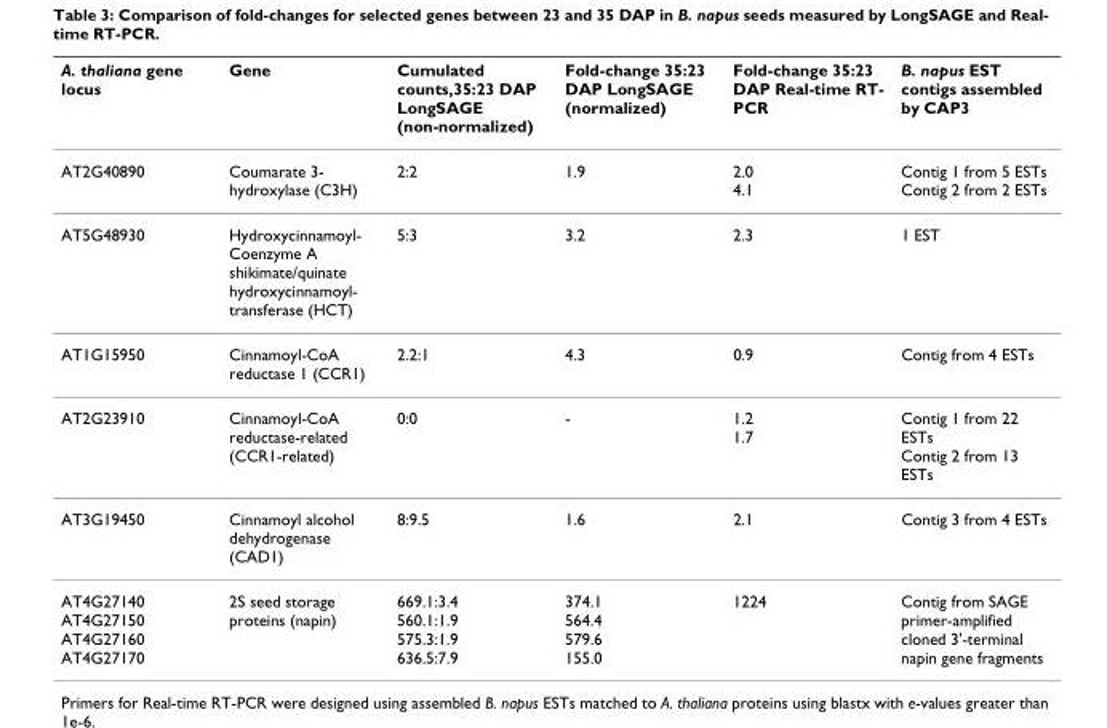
<table><thead><tr><td>A. thaliana gene locus</td><td>Gene</td><td>Cumulated counts,35:23 DAP LongSAGE (non-normalized)</td><td>Fold-change 35:23 DAP LongSAGE (normalized)</td><td>Fold-change 35:23 DAP Real-time RT- PCR</td><td>B. napus EST contigs assembled by CAP3</td></tr></thead><tbody><tr><td>AT2G40890</td><td>Coumarate 3- hydroxylase (C3H)</td><td>2:2</td><td>1.9</td><td>2.0 4.1</td><td>Contig 1 from 5 ESTs Contig 2 from 2 ESTs</td></tr><tr><td>AT5G48930</td><td>Hydroxycinnamoyl- Coenzyme A shikimate/quinate hydroxycinnamoyl- transferase (HCT)</td><td>5:3</td><td>3.2</td><td>2.3</td><td>1 EST</td></tr><tr><td>AT1G15950</td><td>Cinnamoyl-CoA reductase 1 (CCR1)</td><td>2.2:1</td><td>4.3</td><td>0.9</td><td>Contig from 4 ESTs</td></tr><tr><td>AT2G23910</td><td>Cinnamoyl-CoA reductase-related (CCR1-related)</td><td>0:0</td><td>-</td><td>1.2 1.7</td><td>Contig 1 from 22 ESTs Contig 2 from 13 ESTs</td></tr><tr><td>AT3G19450</td><td>Cinnamoyl alcohol dehydrogenase (CAD1)</td><td>8:9.5</td><td>1.6</td><td>2.1</td><td>Contig 3 from 4 ESTs</td></tr><tr><td>AT4G27140 AT4G27150 AT4G27160 AT4G27170</td><td>2S seed storage proteins (napin)</td><td>669.1:3.4 560.1:1.9 575.3:1.9 636.5:7.9</td><td>374.1 564.4 579.6 155.0</td><td>1224</td><td>Contig from SAGE primer-amplified cloned 3&#x27;-terminal napin gene fragments</td></tr></tbody></table>